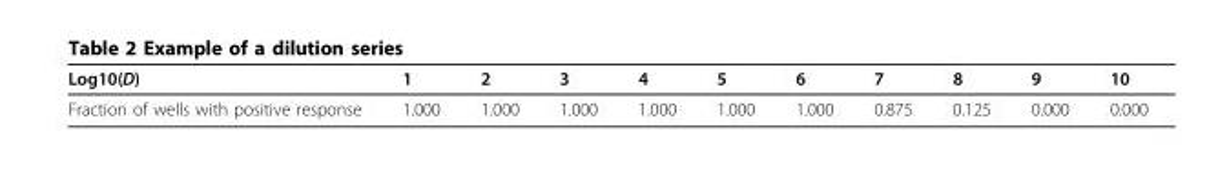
<table><thead><tr><td>Log10(D)</td><td>1</td><td>2</td><td>3</td><td>4</td><td>5</td><td>6</td><td>7</td><td>8</td><td>9</td><td>10</td></tr></thead><tbody><tr><td>Fraction of wells with positive response</td><td>1.000</td><td>1.000</td><td>1.000</td><td>1.000</td><td>1.000</td><td>1.000</td><td>0.875</td><td>0.125</td><td>0.000</td><td>0.000</td></tr></tbody></table>